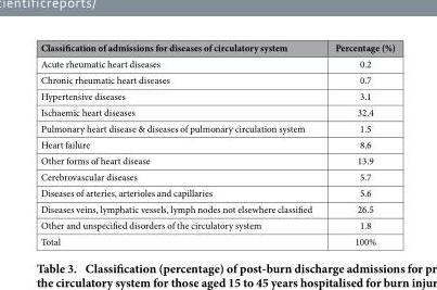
<table><thead><tr><td>Classification of admissions for diseases of circulatory system</td><td>Percentage (%)</td></tr></thead><tbody><tr><td>Acute rheumatic heart diseases</td><td>0.2</td></tr><tr><td>Chronic rheumatic heart diseases</td><td>0.7</td></tr><tr><td>Hypertensive diseases</td><td>3.1</td></tr><tr><td>Ischaemic heart diseases</td><td>32.4</td></tr><tr><td>Pulmonary heart disease &amp; diseases of pulmonary circulation system</td><td>1.5</td></tr><tr><td>Heart failure</td><td>8.6</td></tr><tr><td>Other forms of heart disease</td><td>13.9</td></tr><tr><td>Cerebrovascular diseases</td><td>5.7</td></tr><tr><td>Diseases of arteries, arterioles and capillaries</td><td>5.6</td></tr><tr><td>Diseases veins, lymphatic vessels, lymph nodes not elsewhere classified</td><td>26.5</td></tr><tr><td>Other and unspecified disorders of the circulatory system</td><td>1.8</td></tr><tr><td>Total</td><td>100%</td></tr></tbody></table>